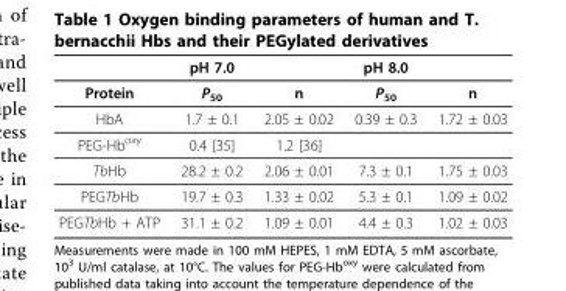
<table><thead><tr><td></td><td>pH 7.0</td><td></td><td>pH 8.0</td><td></td></tr></thead><tbody><tr><td>Protein</td><td>P<sub>50</sub></td><td>n</td><td>P<sub>50</sub></td><td>n</td></tr><tr><td>HbA</td><td>1.7 ± 0.1</td><td>2.05 ± 0.02</td><td>0.39 ± 0.3</td><td>1.72 ± 0.03</td></tr><tr><td>PEG-Hb<sup>oxy</sup></td><td>0.4 [35]</td><td>1.2 [36]</td><td></td><td></td></tr><tr><td>TbHb</td><td>28.2 ± 0.2</td><td>2.06 ± 0.01</td><td>7.3 ± 0.1</td><td>1.75 ± 0.03</td></tr><tr><td>PEGTbHb</td><td>19.7 ± 0.3</td><td>1.33 ± 0.02</td><td>5.3 ± 0.1</td><td>1.09 ± 0.02</td></tr><tr><td>PEGTbHb + ATP</td><td>31.1 ± 0.2</td><td>1.09 ± 0.01</td><td>4.4 ± 0.3</td><td>1.02 ± 0.03</td></tr></tbody></table>